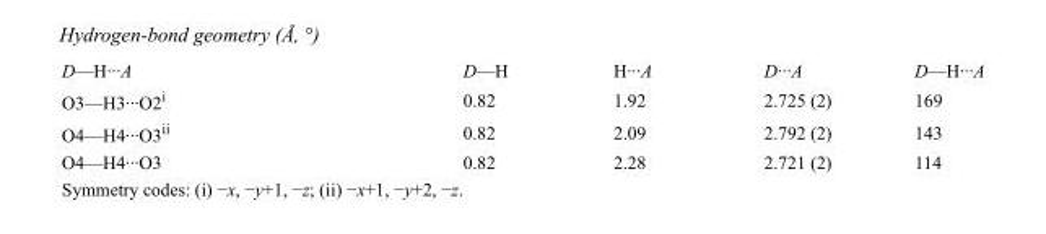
<table><tbody><tr><td>D—H···A</td><td>D—H</td><td>H···A</td><td>D···A</td><td>D—H···A</td></tr><tr><td>O3—H3···O2<sup>i</sup></td><td>0.82</td><td>1.92</td><td>2.725 (2)</td><td>169</td></tr><tr><td>O4—H4···O3<sup>ii</sup></td><td>0.82</td><td>2.09</td><td>2.792 (2)</td><td>143</td></tr><tr><td>O4—H4···O3</td><td>0.82</td><td>2.28</td><td>2.721 (2)</td><td>114</td></tr></tbody></table>